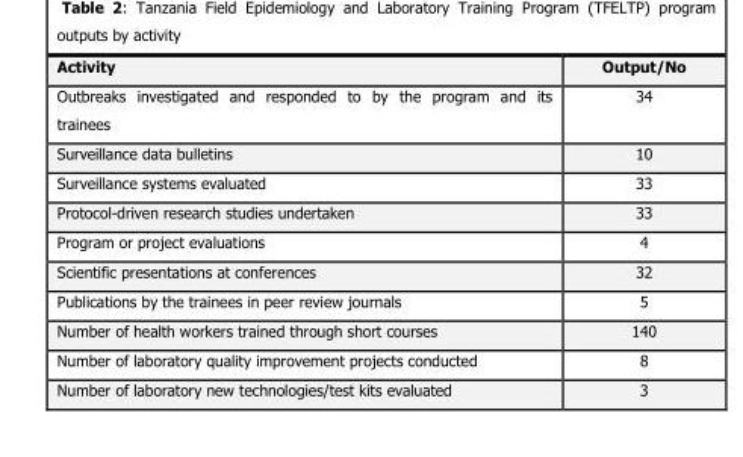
<table><thead><tr><td>Activity</td><td>Output/No</td></tr></thead><tbody><tr><td>Outbreaks investigated and responded to by the program and its trainees</td><td>34</td></tr><tr><td>Surveillance data bulletins</td><td>10</td></tr><tr><td>Surveillance systems evaluated</td><td>33</td></tr><tr><td>Protocol-driven research studies undertaken</td><td>33</td></tr><tr><td>Program or project evaluations</td><td>4</td></tr><tr><td>Scientific presentations at conferences</td><td>32</td></tr><tr><td>Publications by the trainees in peer review journals</td><td>5</td></tr><tr><td>Number of health workers trained through short courses</td><td>140</td></tr><tr><td>Number of laboratory quality improvement projects conducted</td><td>8</td></tr><tr><td>Number of laboratory new technologies/test kits evaluated</td><td>3</td></tr></tbody></table>